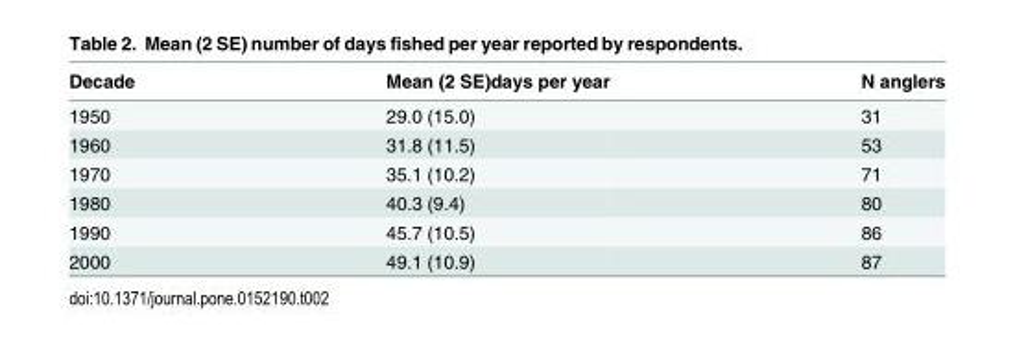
<table><thead><tr><td>Decade</td><td>Mean (2 SE)days per year</td><td>N anglers</td></tr></thead><tbody><tr><td>1950</td><td>29.0 (15.0)</td><td>31</td></tr><tr><td>1960</td><td>31.8 (11.5)</td><td>53</td></tr><tr><td>1970</td><td>35.1 (10.2)</td><td>71</td></tr><tr><td>1980</td><td>40.3 (9.4)</td><td>80</td></tr><tr><td>1990</td><td>45.7 (10.5)</td><td>86</td></tr><tr><td>2000</td><td>49.1 (10.9)</td><td>87</td></tr></tbody></table>